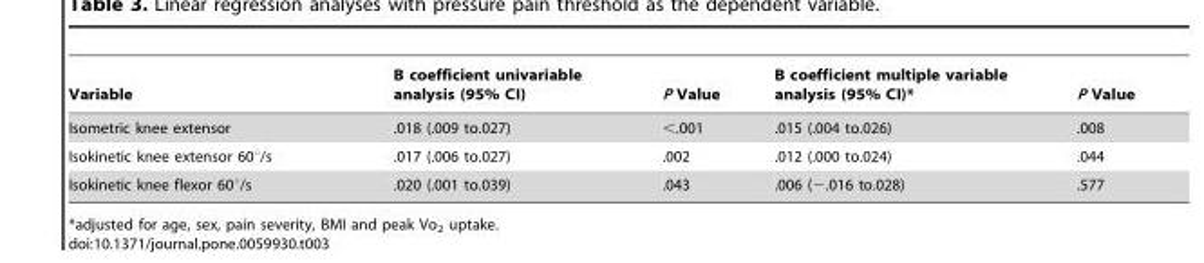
<table><thead><tr><td>Variable</td><td>B coefficient univariable analysis (95% CI)</td><td>P Value</td><td>B coefficient multiple variable analysis (95% CI)*</td><td>P Value</td></tr></thead><tbody><tr><td>Isometric knee extensor</td><td>.018 (.009 to.027)</td><td>&lt;.001</td><td>.015 (.004 to.026)</td><td>.008</td></tr><tr><td>Isokinetic knee extensor 60°/s</td><td>.017 (.006 to.027)</td><td>.002</td><td>.012 (.000 to.024)</td><td>.044</td></tr><tr><td>Isokinetic knee flexor 60°/s</td><td>.020 (.001 to.039)</td><td>.043</td><td>.006 (−.016 to.028)</td><td>.577</td></tr></tbody></table>